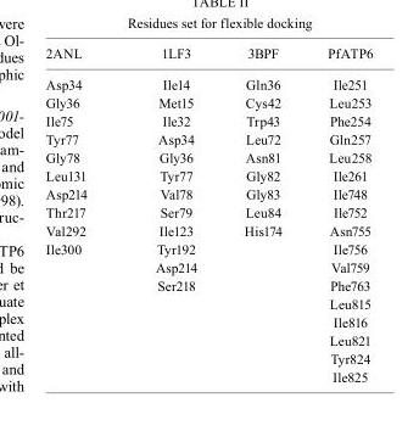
<table><thead><tr><td>2ANL</td><td>1LF3</td><td>3BPF</td><td>PfATP6</td></tr></thead><tbody><tr><td>Asp34</td><td>Ile14</td><td>Gln36</td><td>Ile251</td></tr><tr><td>Gly36</td><td>Met15</td><td>Cys42</td><td>Leu253</td></tr><tr><td>Ile75</td><td>Ile32</td><td>Trp43</td><td>Phe254</td></tr><tr><td>Tyr77</td><td>Asp34</td><td>Leu72</td><td>Gln257</td></tr><tr><td>Gly78</td><td>Gly36</td><td>Asn81</td><td>Leu258</td></tr><tr><td>Leu131</td><td>Tyr77</td><td>Gly82</td><td>Ile261</td></tr><tr><td>Asp214</td><td>Val78</td><td>Gly83</td><td>Ile748</td></tr><tr><td>Thr217</td><td>Ser79</td><td>Leu84</td><td>Ile752</td></tr><tr><td>Val292</td><td>Ile123</td><td>His174</td><td>Asn755</td></tr><tr><td rowspan="8">Ile300</td><td>Tyr192</td><td></td><td>Ile756</td></tr><tr><td>Asp214</td><td></td><td>Val759</td></tr><tr><td>Ser218</td><td></td><td>Phe763</td></tr><tr><td></td><td></td><td>Leu815</td></tr><tr><td></td><td></td><td>Ile816</td></tr><tr><td></td><td></td><td>Leu821</td></tr><tr><td></td><td></td><td>Tyr824</td></tr><tr><td></td><td></td><td>Ile825</td></tr></tbody></table>